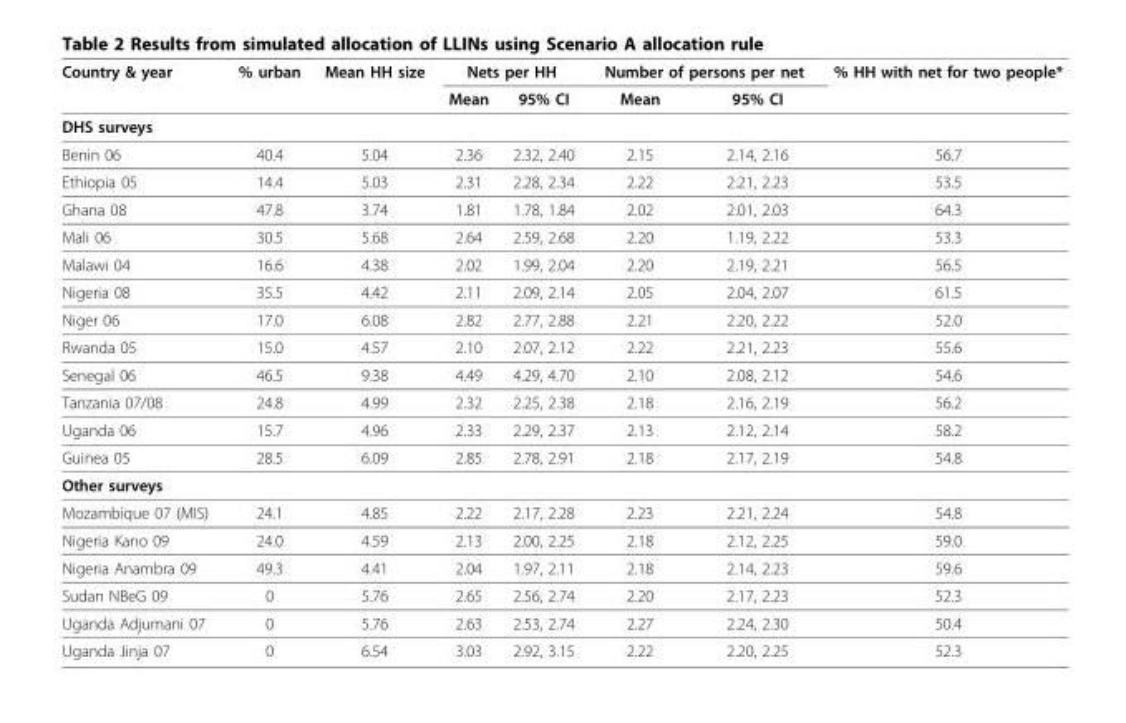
<table><thead><tr><td rowspan="2">Country &amp; year</td><td rowspan="2">% urban</td><td rowspan="2">Mean HH size</td><td colspan="2">Nets per HH</td><td colspan="2">Number of persons per net</td><td rowspan="2">% HH with net for two people*</td></tr><tr><td>Mean</td><td>95% CI</td><td>Mean</td><td>95% CI</td></tr></thead><tbody><tr><td colspan="8">DHS surveys</td></tr><tr><td>Benin 06</td><td>40.4</td><td>5.04</td><td>2.36</td><td>2.32, 2.40</td><td>2.15</td><td>2.14, 2.16</td><td>56.7</td></tr><tr><td>Ethiopia 05</td><td>14.4</td><td>5.03</td><td>2.31</td><td>2.28, 2.34</td><td>2.22</td><td>2.21, 2.23</td><td>53.5</td></tr><tr><td>Ghana 08</td><td>47.8</td><td>3.74</td><td>1.81</td><td>1.78, 1.84</td><td>2.02</td><td>2.01, 2.03</td><td>64.3</td></tr><tr><td>Mali 06</td><td>30.5</td><td>5.68</td><td>2.64</td><td>2.59, 2.68</td><td>2.20</td><td>1.19, 2.22</td><td>53.3</td></tr><tr><td>Malawi 04</td><td>16.6</td><td>4.38</td><td>2.02</td><td>1.99, 2.04</td><td>2.20</td><td>2.19, 2.21</td><td>56.5</td></tr><tr><td>Nigeria 08</td><td>35.5</td><td>4.42</td><td>2.11</td><td>2.09, 2.14</td><td>2.05</td><td>2.04, 2.07</td><td>61.5</td></tr><tr><td>Niger 06</td><td>17.0</td><td>6.08</td><td>2.82</td><td>2.77, 2.88</td><td>2.21</td><td>2.20, 2.22</td><td>52.0</td></tr><tr><td>Rwanda 05</td><td>15.0</td><td>4.57</td><td>2.10</td><td>2.07, 2.12</td><td>2.22</td><td>2.21, 2.23</td><td>55.6</td></tr><tr><td>Senegal 06</td><td>46.5</td><td>9.38</td><td>4.49</td><td>4.29, 4.70</td><td>2.10</td><td>2.08, 2.12</td><td>54.6</td></tr><tr><td>Tanzania 07/08</td><td>24.8</td><td>4.99</td><td>2.32</td><td>2.25, 2.38</td><td>2.18</td><td>2.16, 2.19</td><td>56.2</td></tr><tr><td>Uganda 06</td><td>15.7</td><td>4.96</td><td>2.33</td><td>2.29, 2.37</td><td>2.13</td><td>2.12, 2.14</td><td>58.2</td></tr><tr><td>Guinea 05</td><td>28.5</td><td>6.09</td><td>2.85</td><td>2.78, 2.91</td><td>2.18</td><td>2.17, 2.19</td><td>54.8</td></tr><tr><td colspan="8">Other surveys</td></tr><tr><td>Mozambique 07 (MIS)</td><td>24.1</td><td>4.85</td><td>2.22</td><td>2.17, 2.28</td><td>2.23</td><td>2.21, 2.24</td><td>54.8</td></tr><tr><td>Nigeria Kano 09</td><td>24.0</td><td>4.59</td><td>2.13</td><td>2.00, 2.25</td><td>2.18</td><td>2.12, 2.25</td><td>59.0</td></tr><tr><td>Nigeria Anambra 09</td><td>49.3</td><td>4.41</td><td>2.04</td><td>1.97, 2.11</td><td>2.18</td><td>2.14, 2.23</td><td>59.6</td></tr><tr><td>Sudan NBeG 09</td><td>0</td><td>5.76</td><td>2.65</td><td>2.56, 2.74</td><td>2.20</td><td>2.17, 2.23</td><td>52.3</td></tr><tr><td>Uganda Adjumani 07</td><td>0</td><td>5.76</td><td>2.63</td><td>2.53, 2.74</td><td>2.27</td><td>2.24, 2.30</td><td>50.4</td></tr><tr><td>Uganda Jinja 07</td><td>0</td><td>6.54</td><td>3.03</td><td>2.92, 3.15</td><td>2.22</td><td>2.20, 2.25</td><td>52.3</td></tr></tbody></table>